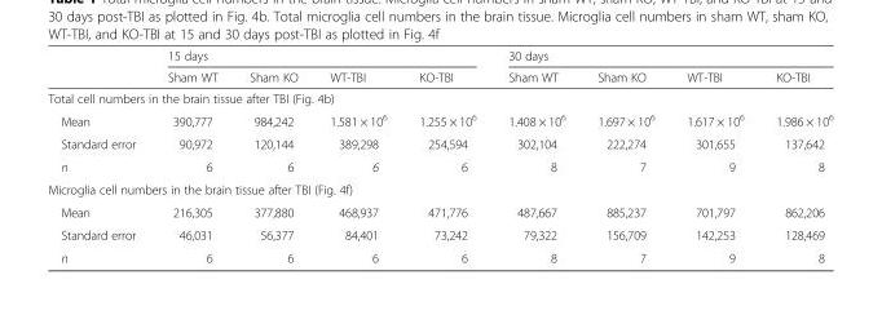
<table><thead><tr><td rowspan="2"></td><td colspan="4">15 days</td><td colspan="4">30 days</td></tr><tr><td>Sham WT</td><td>Sham KO</td><td>WT-TBI</td><td>KO-TBI</td><td>Sham WT</td><td>Sham KO</td><td>WT-TBI</td><td>KO-TBI</td></tr></thead><tbody><tr><td colspan="9">Total cell numbers in the brain tissue after TBI (Fig. 4b)</td></tr><tr><td>Mean</td><td>390,777</td><td>984,242</td><td>1.581 × 10<sup>6</sup></td><td>1.255 × 10<sup>6</sup></td><td>1.408 × 10<sup>6</sup></td><td>1.697 × 10<sup>6</sup></td><td>1.617 × 10<sup>6</sup></td><td>1.986 × 10<sup>6</sup></td></tr><tr><td>Standard error</td><td>90,972</td><td>120,144</td><td>389,298</td><td>254,594</td><td>302,104</td><td>222,274</td><td>301,655</td><td>137,642</td></tr><tr><td>n</td><td>6</td><td>6</td><td>6</td><td>6</td><td>8</td><td>7</td><td>9</td><td>8</td></tr><tr><td colspan="9">Microglia cell numbers in the brain tissue after TBI (Fig. 4f)</td></tr><tr><td>Mean</td><td>216,305</td><td>377,880</td><td>468,937</td><td>471,776</td><td>487,667</td><td>885,237</td><td>701,797</td><td>862,206</td></tr><tr><td>Standard error</td><td>46,031</td><td>56,377</td><td>84,401</td><td>73,242</td><td>79,322</td><td>156,709</td><td>142,253</td><td>128,469</td></tr><tr><td>n</td><td>6</td><td>6</td><td>6</td><td>6</td><td>8</td><td>7</td><td>9</td><td>8</td></tr></tbody></table>